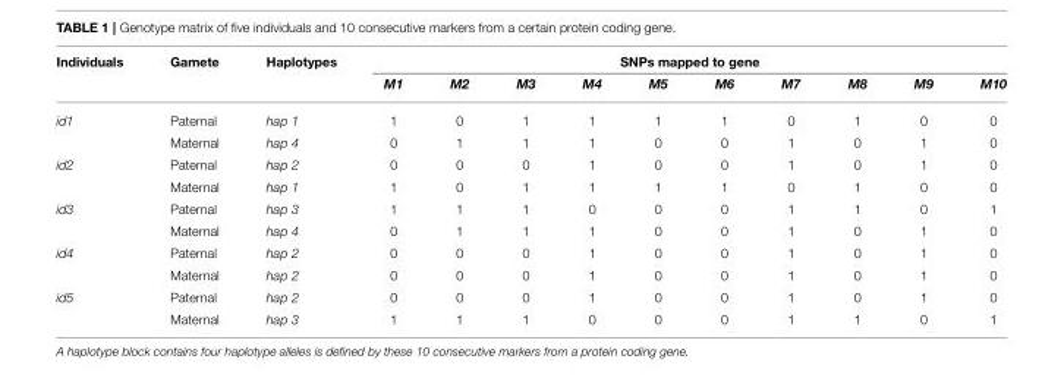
<table><thead><tr><td rowspan="2">Individuals</td><td rowspan="2">Gamete</td><td rowspan="2">Haplotypes</td><td colspan="10">SNPs mapped to gene</td></tr><tr><td>M1</td><td>M2</td><td>M3</td><td>M4</td><td>M5</td><td>M6</td><td>M7</td><td>M8</td><td>M9</td><td>M10</td></tr></thead><tbody><tr><td rowspan="2">id1</td><td>Paternal</td><td>hap 1</td><td>1</td><td>0</td><td>1</td><td>1</td><td>1</td><td>1</td><td>0</td><td>1</td><td>0</td><td>0</td></tr><tr><td>Maternal</td><td>hap 4</td><td>0</td><td>1</td><td>1</td><td>1</td><td>0</td><td>0</td><td>1</td><td>0</td><td>1</td><td>0</td></tr><tr><td rowspan="2">id2</td><td>Paternal</td><td>hap 2</td><td>0</td><td>0</td><td>0</td><td>1</td><td>0</td><td>0</td><td>1</td><td>0</td><td>1</td><td>0</td></tr><tr><td>Maternal</td><td>hap 1</td><td>1</td><td>0</td><td>1</td><td>1</td><td>1</td><td>1</td><td>0</td><td>1</td><td>0</td><td>0</td></tr><tr><td rowspan="2">id3</td><td>Paternal</td><td>hap 3</td><td>1</td><td>1</td><td>1</td><td>0</td><td>0</td><td>0</td><td>1</td><td>1</td><td>0</td><td>1</td></tr><tr><td>Maternal</td><td>hap 4</td><td>0</td><td>1</td><td>1</td><td>1</td><td>0</td><td>0</td><td>1</td><td>0</td><td>1</td><td>0</td></tr><tr><td rowspan="2">id4</td><td>Paternal</td><td>hap 2</td><td>0</td><td>0</td><td>0</td><td>1</td><td>0</td><td>0</td><td>1</td><td>0</td><td>1</td><td>0</td></tr><tr><td>Maternal</td><td>hap 2</td><td>0</td><td>0</td><td>0</td><td>1</td><td>0</td><td>0</td><td>1</td><td>0</td><td>1</td><td>0</td></tr><tr><td rowspan="2">id5</td><td>Paternal</td><td>hap 2</td><td>0</td><td>0</td><td>0</td><td>1</td><td>0</td><td>0</td><td>1</td><td>0</td><td>1</td><td>0</td></tr><tr><td>Maternal</td><td>hap 3</td><td>1</td><td>1</td><td>1</td><td>0</td><td>0</td><td>0</td><td>1</td><td>1</td><td>0</td><td>1</td></tr></tbody></table>